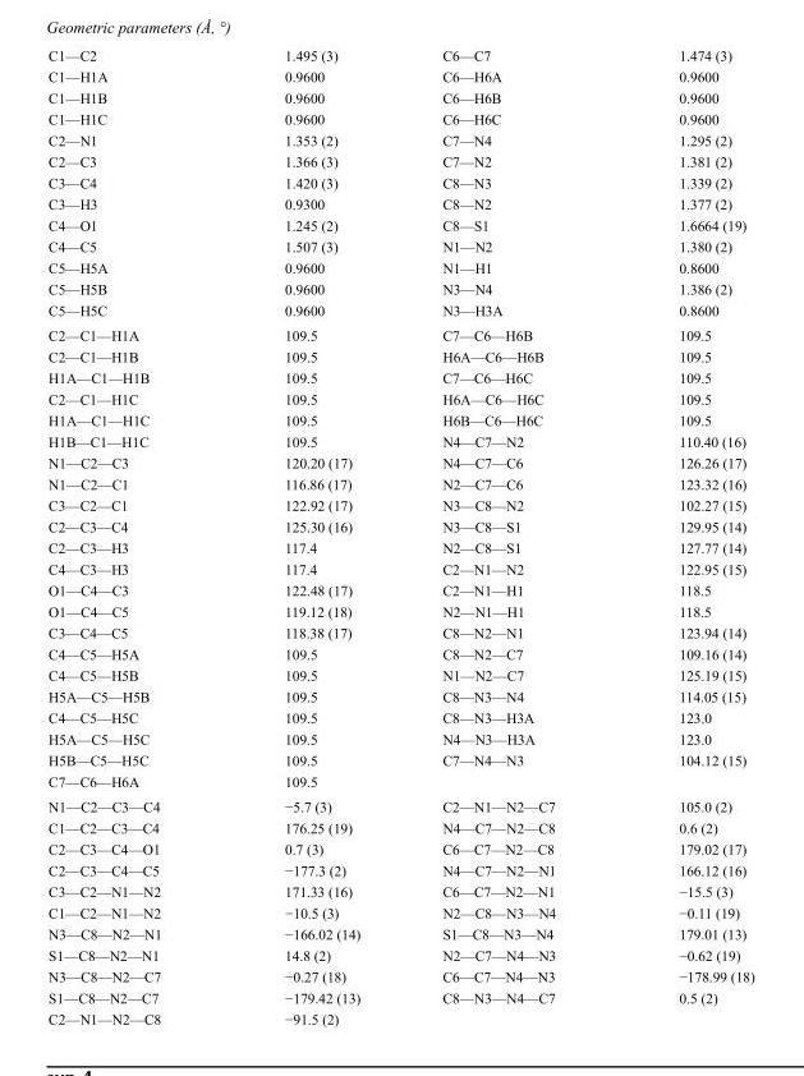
<table><tbody><tr><td>C1—C2</td><td>1.495 (3)</td><td>C6—C7</td><td>1.474 (3)</td></tr><tr><td>C1—H1A</td><td>0.9600</td><td>C6—H6A</td><td>0.9600</td></tr><tr><td>C1—H1B</td><td>0.9600</td><td>C6—H6B</td><td>0.9600</td></tr><tr><td>C1—H1C</td><td>0.9600</td><td>C6—H6C</td><td>0.9600</td></tr><tr><td>C2—N1</td><td>1.353 (2)</td><td>C7—N4</td><td>1.295 (2)</td></tr><tr><td>C2—C3</td><td>1.366 (3)</td><td>C7—N2</td><td>1.381 (2)</td></tr><tr><td>C3—C4</td><td>1.420 (3)</td><td>C8—N3</td><td>1.339 (2)</td></tr><tr><td>C3—H3</td><td>0.9300</td><td>C8—N2</td><td>1.377 (2)</td></tr><tr><td>C4—O1</td><td>1.245 (2)</td><td>C8—S1</td><td>1.6664 (19)</td></tr><tr><td>C4—C5</td><td>1.507 (3)</td><td>N1—N2</td><td>1.380 (2)</td></tr><tr><td>C5—H5A</td><td>0.9600</td><td>N1—H1</td><td>0.8600</td></tr><tr><td>C5—H5B</td><td>0.9600</td><td>N3—N4</td><td>1.386 (2)</td></tr><tr><td>C5—H5C</td><td>0.9600</td><td>N3—H3A</td><td>0.8600</td></tr><tr><td>C2—C1—H1A</td><td>109.5</td><td>C7—C6—H6B</td><td>109.5</td></tr><tr><td>C2—C1—H1B</td><td>109.5</td><td>H6A—C6—H6B</td><td>109.5</td></tr><tr><td>H1A—C1—H1B</td><td>109.5</td><td>C7—C6—H6C</td><td>109.5</td></tr><tr><td>C2—C1—H1C</td><td>109.5</td><td>H6A—C6—H6C</td><td>109.5</td></tr><tr><td>H1A—C1—H1C</td><td>109.5</td><td>H6B—C6—H6C</td><td>109.5</td></tr><tr><td>H1B—C1—H1C</td><td>109.5</td><td>N4—C7—N2</td><td>110.40 (16)</td></tr><tr><td>N1—C2—C3</td><td>120.20 (17)</td><td>N4—C7—C6</td><td>126.26 (17)</td></tr><tr><td>N1—C2—C1</td><td>116.86 (17)</td><td>N2—C7—C6</td><td>123.32 (16)</td></tr><tr><td>C3—C2—C1</td><td>122.92 (17)</td><td>N3—C8—N2</td><td>102.27 (15)</td></tr><tr><td>C2—C3—C4</td><td>125.30 (16)</td><td>N3—C8—S1</td><td>129.95 (14)</td></tr><tr><td>C2—C3—H3</td><td>117.4</td><td>N2—C8—S1</td><td>127.77 (14)</td></tr><tr><td>C4—C3—H3</td><td>117.4</td><td>C2—N1—N2</td><td>122.95 (15)</td></tr><tr><td>O1—C4—C3</td><td>122.48 (17)</td><td>C2—N1—H1</td><td>118.5</td></tr><tr><td>O1—C4—C5</td><td>119.12 (18)</td><td>N2—N1—H1</td><td>118.5</td></tr><tr><td>C3—C4—C5</td><td>118.38 (17)</td><td>C8—N2—N1</td><td>123.94 (14)</td></tr><tr><td>C4—C5—H5A</td><td>109.5</td><td>C8—N2—C7</td><td>109.16 (14)</td></tr><tr><td>C4—C5—H5B</td><td>109.5</td><td>N1—N2—C7</td><td>125.19 (15)</td></tr><tr><td>H5A—C5—H5B</td><td>109.5</td><td>C8—N3—N4</td><td>114.05 (15)</td></tr><tr><td>C4—C5—H5C</td><td>109.5</td><td>C8—N3—H3A</td><td>123.0</td></tr><tr><td>H5A—C5—H5C</td><td>109.5</td><td>N4—N3—H3A</td><td>123.0</td></tr><tr><td>H5B—C5—H5C</td><td>109.5</td><td>C7—N4—N3</td><td>104.12 (15)</td></tr><tr><td>C7—C6—H6A</td><td>109.5</td><td></td><td></td></tr><tr><td>N1—C2—C3—C4</td><td>−5.7 (3)</td><td>C2—N1—N2—C7</td><td>105.0 (2)</td></tr><tr><td>C1—C2—C3—C4</td><td>176.25 (19)</td><td>N4—C7—N2—C8</td><td>0.6 (2)</td></tr><tr><td>C2—C3—C4—O1</td><td>0.7 (3)</td><td>C6—C7—N2—C8</td><td>179.02 (17)</td></tr><tr><td>C2—C3—C4—C5</td><td>−177.3 (2)</td><td>N4—C7—N2—N1</td><td>166.12 (16)</td></tr><tr><td>C3—C2—N1—N2</td><td>171.33 (16)</td><td>C6—C7—N2—N1</td><td>−15.5 (3)</td></tr><tr><td>C1—C2—N1—N2</td><td>−10.5 (3)</td><td>N2—C8—N3—N4</td><td>−0.11 (19)</td></tr><tr><td>N3—C8—N2—N1</td><td>−166.02 (14)</td><td>S1—C8—N3—N4</td><td>179.01 (13)</td></tr><tr><td>S1—C8—N2—N1</td><td>14.8 (2)</td><td>N2—C7—N4—N3</td><td>−0.62 (19)</td></tr><tr><td>N3—C8—N2—C7</td><td>−0.27 (18)</td><td>C6—C7—N4—N3</td><td>−178.99 (18)</td></tr><tr><td>S1—C8—N2—C7</td><td>−179.42 (13)</td><td>C8—N3—N4—C7</td><td>0.5 (2)</td></tr><tr><td>C2—N1—N2—C8</td><td>−91.5 (2)</td><td></td><td></td></tr></tbody></table>